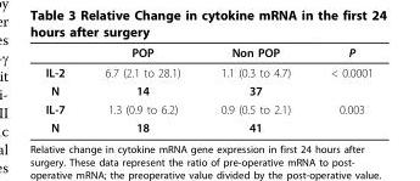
<table><thead><tr><td></td><td>POP</td><td>Non POP</td><td>P</td></tr></thead><tbody><tr><td>IL-2</td><td>6.7 (2.1 to 28.1)</td><td>1.1 (0.3 to 4.7)</td><td>&lt; 0.0001</td></tr><tr><td>N</td><td>14</td><td>37</td><td></td></tr><tr><td>IL-7</td><td>1.3 (0.9 to 6.2)</td><td>0.9 (0.5 to 2.1)</td><td>0.003</td></tr><tr><td>N</td><td>18</td><td>41</td><td></td></tr></tbody></table>